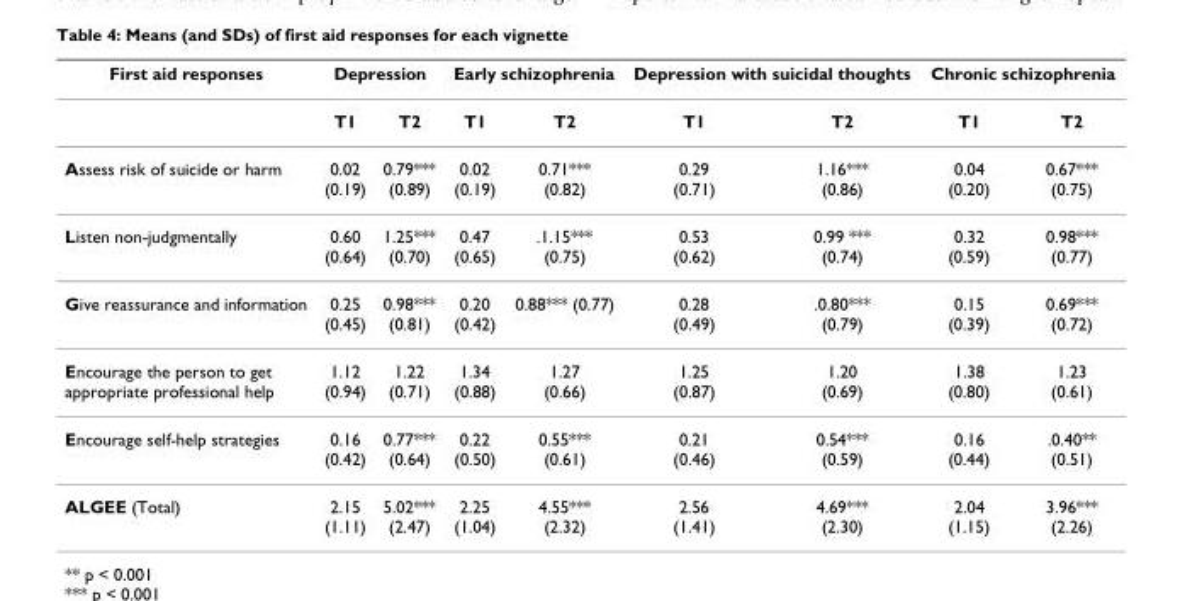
<table><thead><tr><td rowspan="2">First aid responses</td><td colspan="2">Depression</td><td colspan="2">Early schizophrenia</td><td colspan="2">Depression with suicidal thoughts</td><td colspan="2">Chronic schizophrenia</td></tr><tr><td>T1</td><td>T2</td><td>T1</td><td>T2</td><td>T1</td><td>T2</td><td>T1</td><td>T2</td></tr></thead><tbody><tr><td>Assess risk of suicide or harm</td><td>0.02 (0.19)</td><td>0.79*** (0.89)</td><td>0.02 (0.19)</td><td>0.71*** (0.82)</td><td>0.29 (0.71)</td><td>1.16*** (0.86)</td><td>0.04 (0.20)</td><td>0.67*** (0.75)</td></tr><tr><td>Listen non-judgmentally</td><td>0.60 (0.64)</td><td>1.25*** (0.70)</td><td>0.47 (0.65)</td><td>.1.15*** (0.75)</td><td>0.53 (0.62)</td><td>0.99 *** (0.74)</td><td>0.32 (0.59)</td><td>0.98*** (0.77)</td></tr><tr><td>Give reassurance and information</td><td>0.25 (0.45)</td><td>0.98*** (0.81)</td><td>0.20 (0.42)</td><td>0.88*** (0.77)</td><td>0.28 (0.49)</td><td>.0.80*** (0.79)</td><td>0.15 (0.39)</td><td>0.69*** (0.72)</td></tr><tr><td>Encourage the person to get appropriate professional help</td><td>1.12 (0.94)</td><td>1.22 (0.71)</td><td>1.34 (0.88)</td><td>1.27 (0.66)</td><td>1.25 (0.87)</td><td>1.20 (0.69)</td><td>1.38 (0.80)</td><td>1.23 (0.61)</td></tr><tr><td>Encourage self-help strategies</td><td>0.16 (0.42)</td><td>0.77*** (0.64)</td><td>0.22 (0.50)</td><td>0.55*** (0.61)</td><td>0.21 (0.46)</td><td>0.54*** (0.59)</td><td>0.16 (0.44)</td><td>.0.40** (0.51)</td></tr><tr><td>ALGEE (Total)</td><td>2.15 (1.11)</td><td>5.02*** (2.47)</td><td>2.25 (1.04)</td><td>4.55*** (2.32)</td><td>2.56 (1.41)</td><td>4.69*** (2.30)</td><td>2.04 (1.15)</td><td>3.96*** (2.26)</td></tr></tbody></table>